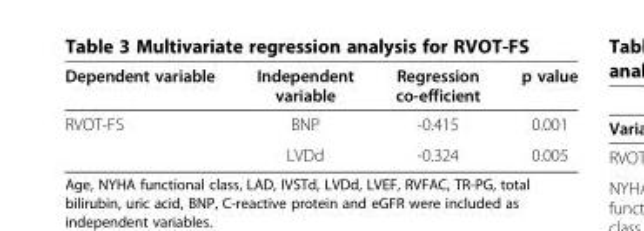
<table><thead><tr><td>Dependent variable</td><td>Independent variable</td><td>Regression co-efficient</td><td>p value</td></tr></thead><tbody><tr><td rowspan="2">RVOT-FS</td><td>BNP</td><td>-0.415</td><td>0.001</td></tr><tr><td>LVDd</td><td>-0.324</td><td>0.005</td></tr></tbody></table>